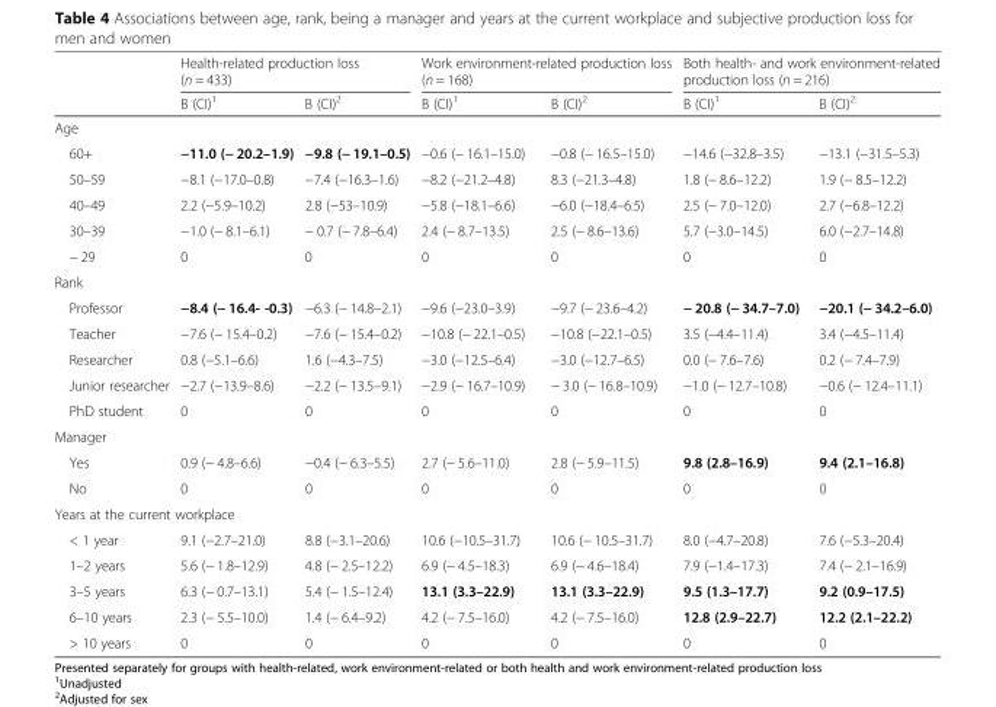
<table><thead><tr><td rowspan="2"></td><td colspan="2">Health-related production loss (n = 433)</td><td colspan="2">Work environment-related production loss (n = 168)</td><td colspan="2">Both health- and work environment-related production loss (n = 216)</td></tr><tr><td>Β (CI)<sup>1</sup></td><td>Β (CI)<sup>2</sup></td><td>Β (CI)<sup>1</sup></td><td>Β (CI)<sup>2</sup></td><td>Β (CI)<sup>1</sup></td><td>Β (CI)<sup>2</sup></td></tr></thead><tbody><tr><td colspan="7">Age</td></tr><tr><td>60+</td><td>−11.0 (− 20.2–1.9)</td><td>−9.8 (− 19.1–0.5)</td><td>−0.6 (− 16.1–15.0)</td><td>−0.8 (− 16.5–15.0)</td><td>−14.6 (−32.8–3.5)</td><td>−13.1 (−31.5–5.3)</td></tr><tr><td>50–59</td><td>−8.1 (−17.0–0.8)</td><td>−7.4 (−16.3–1.6)</td><td>−8.2 (−21.2–4.8)</td><td>8.3 (−21.3–4.8)</td><td>1.8 (− 8.6–12.2)</td><td>1.9 (− 8.5–12.2)</td></tr><tr><td>40–49</td><td>2.2 (−5.9–10.2)</td><td>2.8 (−53–10.9)</td><td>−5.8 (−18.1–6.6)</td><td>−6.0 (−18.4–6.5)</td><td>2.5 (− 7.0–12.0)</td><td>2.7 (−6.8–12.2)</td></tr><tr><td>30–39</td><td>−1.0 (− 8.1–6.1)</td><td>− 0.7 (− 7.8–6.4)</td><td>2.4 (− 8.7–13.5)</td><td>2.5 (− 8.6–13.6)</td><td>5.7 (−3.0–14.5)</td><td>6.0 (−2.7–14.8)</td></tr><tr><td>− 29</td><td>0</td><td>0</td><td>0</td><td>0</td><td>0</td><td>0</td></tr><tr><td colspan="7">Rank</td></tr><tr><td>Professor</td><td>−8.4 (− 16.4- -0.3)</td><td>−6.3 (− 14.8–2.1)</td><td>−9.6 (−23.0–3.9)</td><td>−9.7 (− 23.6–4.2)</td><td>− 20.8 (− 34.7–7.0)</td><td>−20.1 (− 34.2–6.0)</td></tr><tr><td>Teacher</td><td>−7.6 (− 15.4–0.2)</td><td>−7.6 (− 15.4–0.2)</td><td>−10.8 (− 22.1–0.5)</td><td>−10.8 (−22.1–0.5)</td><td>3.5 (−4.4–11.4)</td><td>3.4 (−4.5–11.4)</td></tr><tr><td>Researcher</td><td>0.8 (−5.1–6.6)</td><td>1.6 (−4.3–7.5)</td><td>−3.0 (−12.5–6.4)</td><td>−3.0 (−12.7–6.5)</td><td>0.0 (− 7.6–7.6)</td><td>0.2 (− 7.4–7.9)</td></tr><tr><td>Junior researcher</td><td>−2.7 (−13.9–8.6)</td><td>−2.2 (− 13.5–9.1)</td><td>−2.9 (− 16.7–10.9)</td><td>− 3.0 (− 16.8–10.9)</td><td>−1.0 (− 12.7–10.8)</td><td>−0.6 (− 12.4–11.1)</td></tr><tr><td>PhD student</td><td>0</td><td>0</td><td>0</td><td>0</td><td>0</td><td>0</td></tr><tr><td colspan="7">Manager</td></tr><tr><td>Yes</td><td>0.9 (− 4.8–6.6)</td><td>−0.4 (− 6.3–5.5)</td><td>2.7 (− 5.6–11.0)</td><td>2.8 (− 5.9–11.5)</td><td>9.8 (2.8–16.9)</td><td>9.4 (2.1–16.8)</td></tr><tr><td>No</td><td>0</td><td>0</td><td>0</td><td>0</td><td>0</td><td>0</td></tr><tr><td colspan="7">Years at the current workplace</td></tr><tr><td>&lt; 1 year</td><td>9.1 (−2.7–21.0)</td><td>8.8 (−3.1–20.6)</td><td>10.6 (−10.5–31.7)</td><td>10.6 (− 10.5–31.7)</td><td>8.0 (−4.7–20.8)</td><td>7.6 (−5.3–20.4)</td></tr><tr><td>1–2 years</td><td>5.6 (− 1.8–12.9)</td><td>4.8 (− 2.5–12.2)</td><td>6.9 (− 4.5–18.3)</td><td>6.9 (− 4.6–18.4)</td><td>7.9 (−1.4–17.3)</td><td>7.4 (− 2.1–16.9)</td></tr><tr><td>3–5 years</td><td>6.3 (− 0.7–13.1)</td><td>5.4 (− 1.5–12.4)</td><td>13.1 (3.3–22.9)</td><td>13.1 (3.3–22.9)</td><td>9.5 (1.3–17.7)</td><td>9.2 (0.9–17.5)</td></tr><tr><td>6–10 years</td><td>2.3 (− 5.5–10.0)</td><td>1.4 (− 6.4–9.2)</td><td>4.2 (− 7.5–16.0)</td><td>4.2 (− 7.5–16.0)</td><td>12.8 (2.9–22.7)</td><td>12.2 (2.1–22.2)</td></tr><tr><td>&gt; 10 years</td><td>0</td><td>0</td><td>0</td><td>0</td><td>0</td><td>0</td></tr></tbody></table>